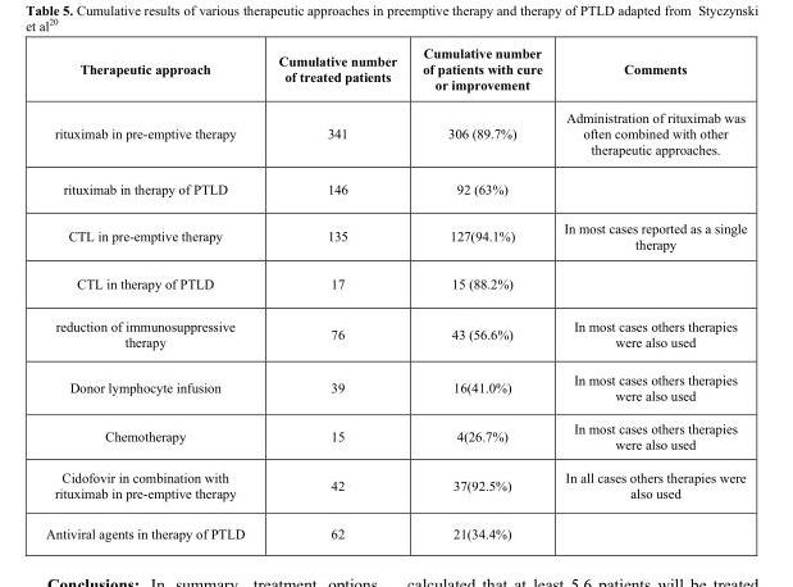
<table><thead><tr><td>Therapeutic approach</td><td>Cumulative number of treated patients</td><td>Cumulative number of patients with cure or improvement</td><td>Comments</td></tr></thead><tbody><tr><td>rituximab in pre-emptive therapy</td><td>341</td><td>306 (89.7%)</td><td>Administration of rituximab was often combined with other therapeutic approaches.</td></tr><tr><td>rituximab in therapy of PTLD</td><td>146</td><td>92 (63%)</td><td></td></tr><tr><td>CTL in pre-emptive therapy</td><td>135</td><td>127(94.1%)</td><td>In most cases reported as a single therapy</td></tr><tr><td>CTL in therapy of PTLD</td><td>17</td><td>15 (88.2%)</td><td></td></tr><tr><td>reduction of immunosuppressive therapy</td><td>76</td><td>43 (56.6%)</td><td>In most cases others therapies were also used</td></tr><tr><td>Donor lymphocyte infusion</td><td>39</td><td>16(41.0%)</td><td>In most cases others therapies were also used</td></tr><tr><td>Chemotherapy</td><td>15</td><td>4(26.7%)</td><td>In most cases others therapies were also used</td></tr><tr><td>Cidofovir in combination with rituximab in pre-emptive therapy</td><td>42</td><td>37(92.5%)</td><td>In all cases others therapies were also used</td></tr><tr><td>Antiviral agents in therapy of PTLD</td><td>62</td><td>21(34.4%)</td><td></td></tr></tbody></table>